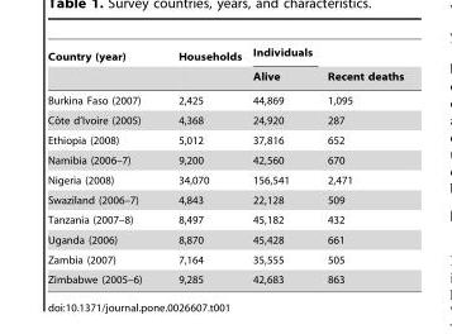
<table><thead><tr><td rowspan="2">Country (year)</td><td rowspan="2">Households</td><td rowspan="2">Individuals Alive</td><td rowspan="2">Recent deaths</td></tr><tr></tr></thead><tbody><tr><td>Burkina Faso (2007)</td><td>2,425</td><td>44,869</td><td>1,095</td></tr><tr><td>Coˆte d’Ivoire (2005)</td><td>4,368</td><td>24,920</td><td>287</td></tr><tr><td>Ethiopia (2008)</td><td>5,012</td><td>37,816</td><td>652</td></tr><tr><td>Namibia (2006–7)</td><td>9,200</td><td>42,560</td><td>670</td></tr><tr><td>Nigeria (2008)</td><td>34,070</td><td>156,541</td><td>2,471</td></tr><tr><td>Swaziland (2006–7)</td><td>4,843</td><td>22,128</td><td>509</td></tr><tr><td>Tanzania (2007–8)</td><td>8,497</td><td>45,182</td><td>432</td></tr><tr><td>Uganda (2006)</td><td>8,870</td><td>45,428</td><td>661</td></tr><tr><td>Zambia (2007)</td><td>7,164</td><td>35,555</td><td>505</td></tr><tr><td>Zimbabwe (2005–6)</td><td>9,285</td><td>42,683</td><td>863</td></tr></tbody></table>